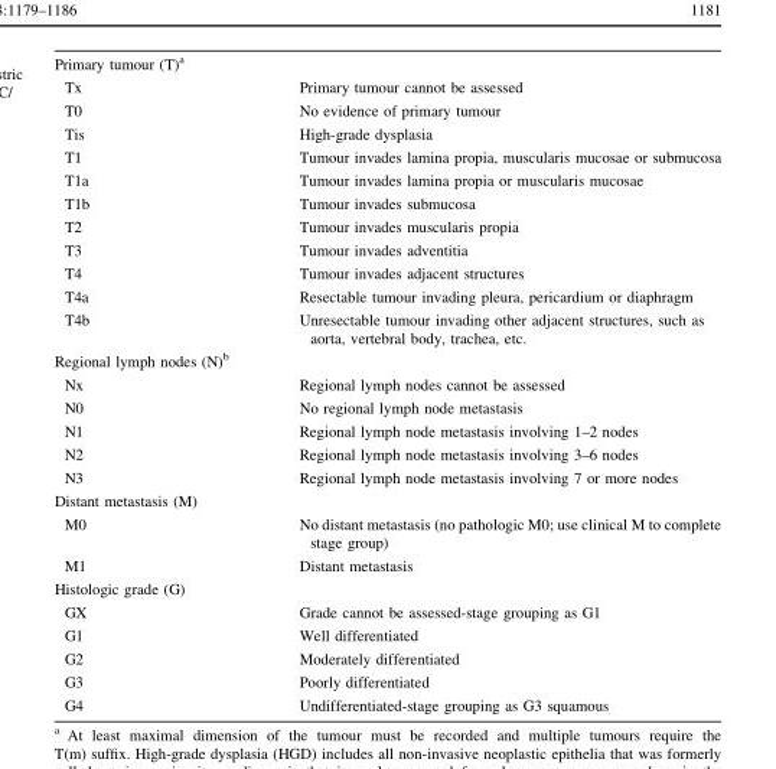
<table><tbody><tr><td colspan="2">Primary tumour (T)<sup>a</sup></td></tr><tr><td>Tx</td><td>Primary tumour cannot be assessed</td></tr><tr><td>T0</td><td>No evidence of primary tumour</td></tr><tr><td>Tis</td><td>High-grade dysplasia</td></tr><tr><td>T1</td><td>Tumour invades lamina propia, muscularis mucosae or submucosa</td></tr><tr><td>T1a</td><td>Tumour invades lamina propia or muscularis mucosae</td></tr><tr><td>T1b</td><td>Tumour invades submucosa</td></tr><tr><td>T2</td><td>Tumour invades muscularis propia</td></tr><tr><td>T3</td><td>Tumour invades adventitia</td></tr><tr><td>T4</td><td>Tumour invades adjacent structures</td></tr><tr><td>T4a</td><td>Resectable tumour invading pleura, pericardium or diaphragm</td></tr><tr><td>T4b</td><td>Unresectable tumour invading other adjacent structures, such as aorta, vertebral body, trachea, etc.</td></tr><tr><td colspan="2">Regional lymph nodes (N)<sup>b</sup></td></tr><tr><td>Nx</td><td>Regional lymph nodes cannot be assessed</td></tr><tr><td>N0</td><td>No regional lymph node metastasis</td></tr><tr><td>N1</td><td>Regional lymph node metastasis involving 1–2 nodes</td></tr><tr><td>N2</td><td>Regional lymph node metastasis involving 3–6 nodes</td></tr><tr><td>N3</td><td>Regional lymph node metastasis involving 7 or more nodes</td></tr><tr><td colspan="2">Distant metastasis (M)</td></tr><tr><td>M0</td><td>No distant metastasis (no pathologic M0; use clinical M to complete stage group)</td></tr><tr><td>M1</td><td>Distant metastasis</td></tr><tr><td colspan="2">Histologic grade (G)</td></tr><tr><td>GX</td><td>Grade cannot be assessed-stage grouping as G1</td></tr><tr><td>G1</td><td>Well differentiated</td></tr><tr><td>G2</td><td>Moderately differentiated</td></tr><tr><td>G3</td><td>Poorly differentiated</td></tr><tr><td>G4</td><td>Undifferentiated-stage grouping as G3 squamous</td></tr></tbody></table>